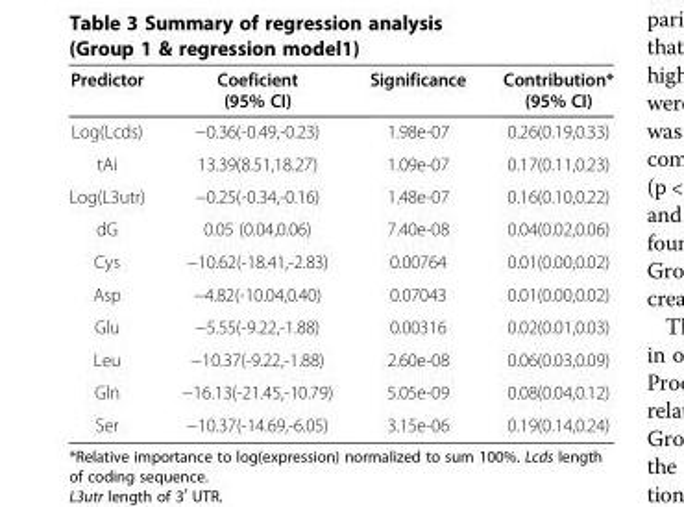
<table><thead><tr><td>Predictor</td><td>Coeficient (95% CI)</td><td>Significance</td><td>Contribution* (95% CI)</td></tr></thead><tbody><tr><td>Log(Lcds)</td><td>−0.36(-0.49,-0.23)</td><td>1.98e-07</td><td>0.26(0.19,0.33)</td></tr><tr><td>tAi</td><td>13.39(8.51,18.27)</td><td>1.09e-07</td><td>0.17(0.11,0.23)</td></tr><tr><td>Log(L3utr)</td><td>−0.25(-0.34,-0.16)</td><td>1.48e-07</td><td>0.16(0.10,0.22)</td></tr><tr><td>dG</td><td>0.05 (0.04,0.06)</td><td>7.40e-08</td><td>0.04(0.02,0.06)</td></tr><tr><td>Cys</td><td>−10.62(-18.41,-2.83)</td><td>0.00764</td><td>0.01(0.00,0.02)</td></tr><tr><td>Asp</td><td>−4.82(-10.04,0.40)</td><td>0.07043</td><td>0.01(0.00,0.02)</td></tr><tr><td>Glu</td><td>−5.55(-9.22,-1.88)</td><td>0.00316</td><td>0.02(0.01,0.03)</td></tr><tr><td>Leu</td><td>−10.37(-9.22,-1.88)</td><td>2.60e-08</td><td>0.06(0.03,0.09)</td></tr><tr><td>Gln</td><td>−16.13(-21.45,-10.79)</td><td>5.05e-09</td><td>0.08(0.04,0.12)</td></tr><tr><td>Ser</td><td>−10.37(-14.69,-6.05)</td><td>3.15e-06</td><td>0.19(0.14,0.24)</td></tr></tbody></table>